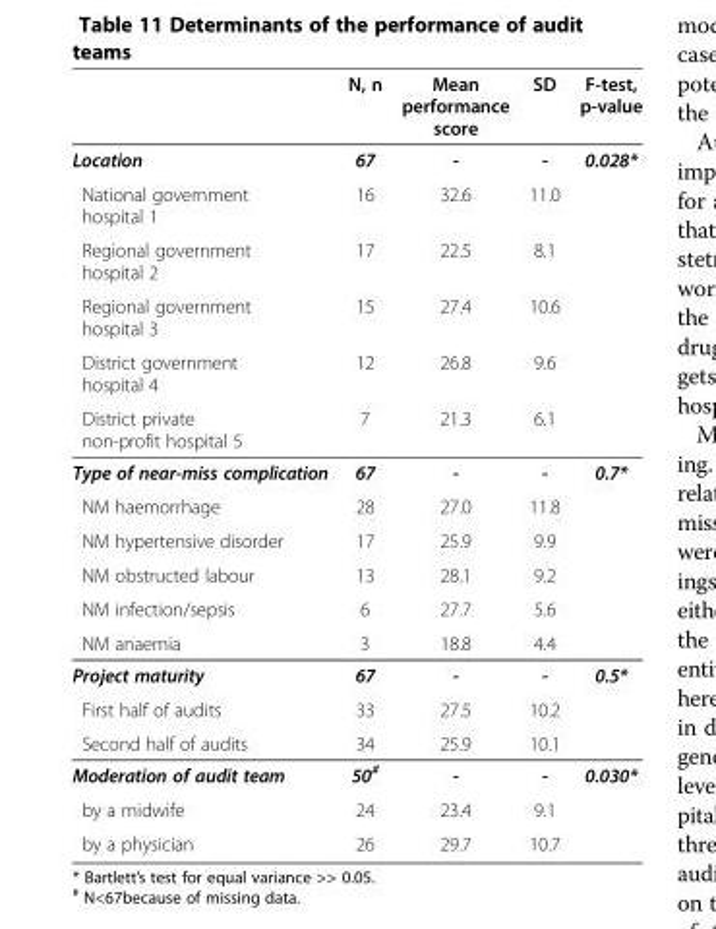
<table><thead><tr><td></td><td>N, n</td><td>Mean performance score</td><td>SD</td><td>F-test, p-value</td></tr></thead><tbody><tr><td>Location</td><td>67</td><td>-</td><td>-</td><td>0.028*</td></tr><tr><td>National government hospital 1</td><td>16</td><td>32.6</td><td>11.0</td><td></td></tr><tr><td>Regional government hospital 2</td><td>17</td><td>22.5</td><td>8.1</td><td></td></tr><tr><td>Regional government hospital 3</td><td>15</td><td>27.4</td><td>10.6</td><td></td></tr><tr><td>District government hospital 4</td><td>12</td><td>26.8</td><td>9.6</td><td></td></tr><tr><td>District private non-profit hospital 5</td><td>7</td><td>21.3</td><td>6.1</td><td></td></tr><tr><td>Type of near-miss complication</td><td>67</td><td>-</td><td>-</td><td>0.7*</td></tr><tr><td>NM haemorrhage</td><td>28</td><td>27.0</td><td>11.8</td><td></td></tr><tr><td>NM hypertensive disorder</td><td>17</td><td>25.9</td><td>9.9</td><td></td></tr><tr><td>NM obstructed labour</td><td>13</td><td>28.1</td><td>9.2</td><td></td></tr><tr><td>NM infection/sepsis</td><td>6</td><td>27.7</td><td>5.6</td><td></td></tr><tr><td>NM anaemia</td><td>3</td><td>18.8</td><td>4.4</td><td></td></tr><tr><td>Project maturity</td><td>67</td><td>-</td><td>-</td><td>0.5*</td></tr><tr><td>First half of audits</td><td>33</td><td>27.5</td><td>10.2</td><td></td></tr><tr><td>Second half of audits</td><td>34</td><td>25.9</td><td>10.1</td><td></td></tr><tr><td>Moderation of audit team</td><td>50<sup>#</sup></td><td>-</td><td>-</td><td>0.030*</td></tr><tr><td>by a midwife</td><td>24</td><td>23.4</td><td>9.1</td><td></td></tr><tr><td>by a physician</td><td>26</td><td>29.7</td><td>10.7</td><td></td></tr></tbody></table>